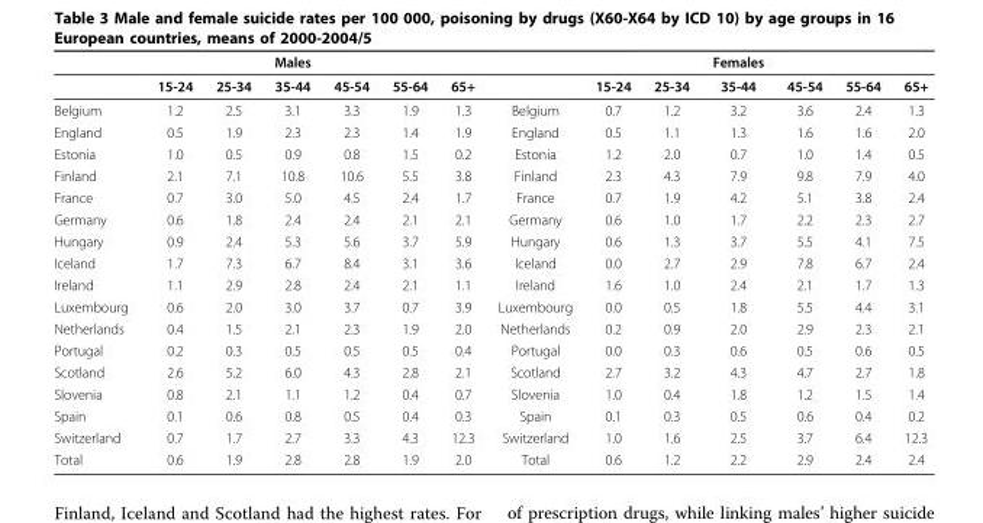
<table><thead><tr><td></td><td></td><td></td><td>Males</td><td></td><td></td><td></td><td></td><td></td><td></td><td>Females</td><td></td><td></td><td></td></tr></thead><tbody><tr><td></td><td>15-24</td><td>25-34</td><td>35-44</td><td>45-54</td><td>55-64</td><td>65+</td><td></td><td>15-24</td><td>25-34</td><td>35-44</td><td>45-54</td><td>55-64</td><td>65+</td></tr><tr><td>Belgium</td><td>1.2</td><td>2.5</td><td>3.1</td><td>3.3</td><td>1.9</td><td>1.3</td><td>Belgium</td><td>0.7</td><td>1.2</td><td>3.2</td><td>3.6</td><td>2.4</td><td>1.3</td></tr><tr><td>England</td><td>0.5</td><td>1.9</td><td>2.3</td><td>2.3</td><td>1.4</td><td>1.9</td><td>England</td><td>0.5</td><td>1.1</td><td>1.3</td><td>1.6</td><td>1.6</td><td>2.0</td></tr><tr><td>Estonia</td><td>1.0</td><td>0.5</td><td>0.9</td><td>0.8</td><td>1.5</td><td>0.2</td><td>Estonia</td><td>1.2</td><td>2.0</td><td>0.7</td><td>1.0</td><td>1.4</td><td>0.5</td></tr><tr><td>Finland</td><td>2.1</td><td>7.1</td><td>10.8</td><td>10.6</td><td>5.5</td><td>3.8</td><td>Finland</td><td>2.3</td><td>4.3</td><td>7.9</td><td>9.8</td><td>7.9</td><td>4.0</td></tr><tr><td>France</td><td>0.7</td><td>3.0</td><td>5.0</td><td>4.5</td><td>2.4</td><td>1.7</td><td>France</td><td>0.7</td><td>1.9</td><td>4.2</td><td>5.1</td><td>3.8</td><td>2.4</td></tr><tr><td>Germany</td><td>0.6</td><td>1.8</td><td>2.4</td><td>2.4</td><td>2.1</td><td>2.1</td><td>Germany</td><td>0.6</td><td>1.0</td><td>1.7</td><td>2.2</td><td>2.3</td><td>2.7</td></tr><tr><td>Hungary</td><td>0.9</td><td>2.4</td><td>5.3</td><td>5.6</td><td>3.7</td><td>5.9</td><td>Hungary</td><td>0.6</td><td>1.3</td><td>3.7</td><td>5.5</td><td>4.1</td><td>7.5</td></tr><tr><td>Iceland</td><td>1.7</td><td>7.3</td><td>6.7</td><td>8.4</td><td>3.1</td><td>3.6</td><td>Iceland</td><td>0.0</td><td>2.7</td><td>2.9</td><td>7.8</td><td>6.7</td><td>2.4</td></tr><tr><td>Ireland</td><td>1.1</td><td>2.9</td><td>2.8</td><td>2.4</td><td>2.1</td><td>1.1</td><td>Ireland</td><td>1.6</td><td>1.0</td><td>2.4</td><td>2.1</td><td>1.7</td><td>1.3</td></tr><tr><td>Luxembourg</td><td>0.6</td><td>2.0</td><td>3.0</td><td>3.7</td><td>0.7</td><td>3.9</td><td>Luxembourg</td><td>0.0</td><td>0.5</td><td>1.8</td><td>5.5</td><td>4.4</td><td>3.1</td></tr><tr><td>Netherlands</td><td>0.4</td><td>1.5</td><td>2.1</td><td>2.3</td><td>1.9</td><td>2.0</td><td>Netherlands</td><td>0.2</td><td>0.9</td><td>2.0</td><td>2.9</td><td>2.3</td><td>2.1</td></tr><tr><td>Portugal</td><td>0.2</td><td>0.3</td><td>0.5</td><td>0.5</td><td>0.5</td><td>0.4</td><td>Portugal</td><td>0.0</td><td>0.3</td><td>0.6</td><td>0.5</td><td>0.6</td><td>0.5</td></tr><tr><td>Scotland</td><td>2.6</td><td>5.2</td><td>6.0</td><td>4.3</td><td>2.8</td><td>2.1</td><td>Scotland</td><td>2.7</td><td>3.2</td><td>4.3</td><td>4.7</td><td>2.7</td><td>1.8</td></tr><tr><td>Slovenia</td><td>0.8</td><td>2.1</td><td>1.1</td><td>1.2</td><td>0.4</td><td>0.7</td><td>Slovenia</td><td>1.0</td><td>0.4</td><td>1.8</td><td>1.2</td><td>1.5</td><td>1.4</td></tr><tr><td>Spain</td><td>0.1</td><td>0.6</td><td>0.8</td><td>0.5</td><td>0.4</td><td>0.3</td><td>Spain</td><td>0.1</td><td>0.3</td><td>0.5</td><td>0.6</td><td>0.4</td><td>0.2</td></tr><tr><td>Switzerland</td><td>0.7</td><td>1.7</td><td>2.7</td><td>3.3</td><td>4.3</td><td>12.3</td><td>Switzerland</td><td>1.0</td><td>1.6</td><td>2.5</td><td>3.7</td><td>6.4</td><td>12.3</td></tr><tr><td>Total</td><td>0.6</td><td>1.9</td><td>2.8</td><td>2.8</td><td>1.9</td><td>2.0</td><td>Total</td><td>0.6</td><td>1.2</td><td>2.2</td><td>2.9</td><td>2.4</td><td>2.4</td></tr></tbody></table>